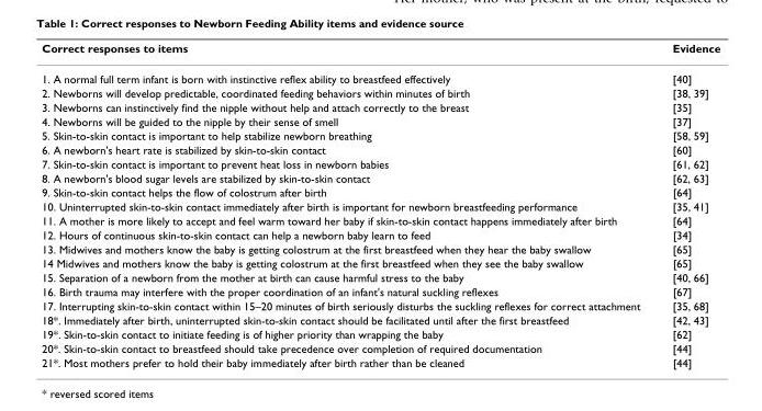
<table><thead><tr><td>Correct responses to items</td><td>Evidence</td></tr></thead><tbody><tr><td>1. A normal full term infant is born with instinctive reflex ability to breastfeed effectively</td><td>[40]</td></tr><tr><td>2. Newborns will develop predictable, coordinated feeding behaviors within minutes of birth</td><td>[38, 39]</td></tr><tr><td>3. Newborns can instinctively find the nipple without help and attach correctly to the breast</td><td>[35]</td></tr><tr><td>4. Newborns will be guided to the nipple by their sense of smell</td><td>[37]</td></tr><tr><td>5. Skin-to-skin contact is important to help stabilize newborn breathing</td><td>[58, 59]</td></tr><tr><td>6. A newborn&#x27;s heart rate is stabilized by skin-to-skin contact</td><td>[60]</td></tr><tr><td>7. Skin-to-skin contact is important to prevent heat loss in newborn babies</td><td>[61, 62]</td></tr><tr><td>8. A newborn&#x27;s blood sugar levels are stabilized by skin-to-skin contact</td><td>[62, 63]</td></tr><tr><td>9. Skin-to-skin contact helps the flow of colostrum after birth</td><td>[64]</td></tr><tr><td>10. Uninterrupted skin-to-skin contact immediately after birth is important for newborn breastfeeding performance</td><td>[35, 41]</td></tr><tr><td>11. A mother is more likely to accept and feel warm toward her baby if skin-to-skin contact happens immediately after birth</td><td>[64]</td></tr><tr><td>12. Hours of continuous skin-to-skin contact can help a newborn baby learn to feed</td><td>[34]</td></tr><tr><td>13. Midwives and mothers know the baby is getting colostrum at the first breastfeed when they hear the baby swallow</td><td>[65]</td></tr><tr><td>14 Midwives and mothers know the baby is getting colostrum at the first breastfeed when they see the baby swallow</td><td>[65]</td></tr><tr><td>15. Separation of a newborn from the mother at birth can cause harmful stress to the baby</td><td>[40, 66]</td></tr><tr><td>16. Birth trauma may interfere with the proper coordination of an infant&#x27;s natural suckling reflexes</td><td>[67]</td></tr><tr><td>17. Interrupting skin-to-skin contact within 15–20 minutes of birth seriously disturbs the suckling reflexes for correct attachment</td><td>[35, 68]</td></tr><tr><td>18*. Immediately after birth, uninterrupted skin-to-skin contact should be facilitated until after the first breastfeed</td><td>[42, 43]</td></tr><tr><td>19*. Skin-to-skin contact to initiate feeding is of higher priority than wrapping the baby</td><td>[62]</td></tr><tr><td>20*. Skin-to-skin contact to breastfeed should take precedence over completion of required documentation</td><td>[44]</td></tr><tr><td>21*. Most mothers prefer to hold their baby immediately after birth rather than be cleaned</td><td>[44]</td></tr></tbody></table>